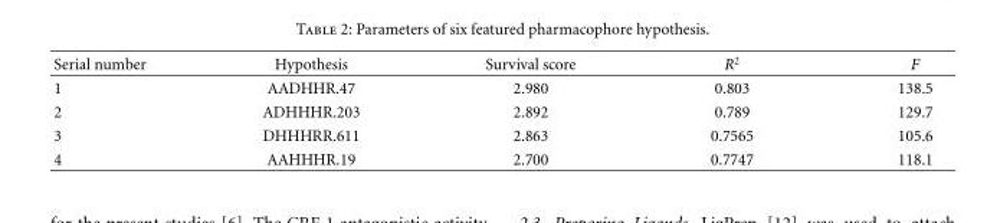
<table><thead><tr><td>Serial number</td><td>Hypothesis</td><td>Survival score</td><td>R<sup>2</sup></td><td>F</td></tr></thead><tbody><tr><td>1</td><td>AADHHR.47</td><td>2.980</td><td>0.803</td><td>138.5</td></tr><tr><td>2</td><td>ADHHHR.203</td><td>2.892</td><td>0.789</td><td>129.7</td></tr><tr><td>3</td><td>DHHHRR.611</td><td>2.863</td><td>0.7565</td><td>105.6</td></tr><tr><td>4</td><td>AAHHHR.19</td><td>2.700</td><td>0.7747</td><td>118.1</td></tr></tbody></table>